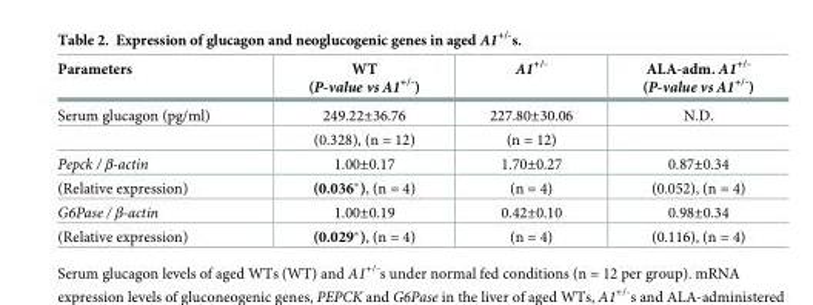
<table><thead><tr><td>Parameters</td><td>WT (P-value vs A1<sup>+/-</sup>)</td><td>A1<sup>+/-</sup></td><td>ALA-adm. A1<sup>+/-</sup> (P-value vs A1<sup>+/-</sup>)</td></tr></thead><tbody><tr><td rowspan="2">Serum glucagon (pg/ml)</td><td>249.22±36.76</td><td>227.80±30.06</td><td>N.D.</td></tr><tr><td>(0.328), (n = 12)</td><td>(n = 12)</td><td></td></tr><tr><td>Pepck / β-actin</td><td>1.00±0.17</td><td>1.70±0.27</td><td>0.87±0.34</td></tr><tr><td>(Relative expression)</td><td>(0.036*), (n = 4)</td><td>(n = 4)</td><td>(0.052), (n = 4)</td></tr><tr><td>G6Pase / β-actin</td><td>1.00±0.19</td><td>0.42±0.10</td><td>0.98±0.34</td></tr><tr><td>(Relative expression)</td><td>(0.029*), (n = 4)</td><td>(n = 4)</td><td>(0.116), (n = 4)</td></tr></tbody></table>